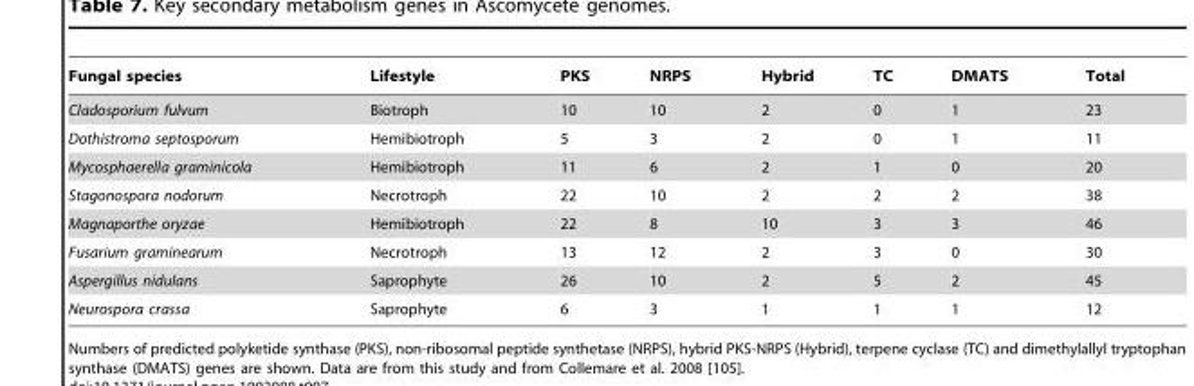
<table><thead><tr><td>Fungal species</td><td>Lifestyle</td><td>PKS</td><td>NRPS</td><td>Hybrid</td><td>TC</td><td>DMATS</td><td>Total</td></tr></thead><tbody><tr><td>Cladosporium fulvum</td><td>Biotroph</td><td>10</td><td>10</td><td>2</td><td>0</td><td>1</td><td>23</td></tr><tr><td>Dothistroma septosporum</td><td>Hemibiotroph</td><td>5</td><td>3</td><td>2</td><td>0</td><td>1</td><td>11</td></tr><tr><td>Mycosphaerella graminicola</td><td>Hemibiotroph</td><td>11</td><td>6</td><td>2</td><td>1</td><td>0</td><td>20</td></tr><tr><td>Stagonospora nodorum</td><td>Necrotroph</td><td>22</td><td>10</td><td>2</td><td>2</td><td>2</td><td>38</td></tr><tr><td>Magnaporthe oryzae</td><td>Hemibiotroph</td><td>22</td><td>8</td><td>10</td><td>3</td><td>3</td><td>46</td></tr><tr><td>Fusarium graminearum</td><td>Necrotroph</td><td>13</td><td>12</td><td>2</td><td>3</td><td>0</td><td>30</td></tr><tr><td>Aspergillus nidulans</td><td>Saprophyte</td><td>26</td><td>10</td><td>2</td><td>5</td><td>2</td><td>45</td></tr><tr><td>Neurospora crassa</td><td>Saprophyte</td><td>6</td><td>3</td><td>1</td><td>1</td><td>1</td><td>12</td></tr></tbody></table>